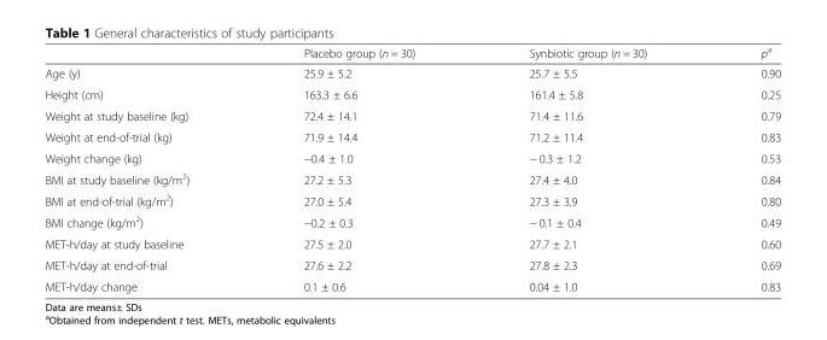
<table><thead><tr><td></td><td>Placebo group (n = 30)</td><td>Synbiotic group (n = 30)</td><td>p<sup>a</sup></td></tr></thead><tbody><tr><td>Age (y)</td><td>25.9 ± 5.2</td><td>25.7 ± 5.5</td><td>0.90</td></tr><tr><td>Height (cm)</td><td>163.3 ± 6.6</td><td>161.4 ± 5.8</td><td>0.25</td></tr><tr><td>Weight at study baseline (kg)</td><td>72.4 ± 14.1</td><td>71.4 ± 11.6</td><td>0.79</td></tr><tr><td>Weight at end-of-trial (kg)</td><td>71.9 ± 14.4</td><td>71.2 ± 11.4</td><td>0.83</td></tr><tr><td>Weight change (kg)</td><td>−0.4 ± 1.0</td><td>− 0.3 ± 1.2</td><td>0.53</td></tr><tr><td>BMI at study baseline (kg/m<sup>2</sup>)</td><td>27.2 ± 5.3</td><td>27.4 ± 4.0</td><td>0.84</td></tr><tr><td>BMI at end-of-trial (kg/m<sup>2</sup>)</td><td>27.0 ± 5.4</td><td>27.3 ± 3.9</td><td>0.80</td></tr><tr><td>BMI change (kg/m<sup>2</sup>)</td><td>−0.2 ± 0.3</td><td>− 0.1 ± 0.4</td><td>0.49</td></tr><tr><td>MET-h/day at study baseline</td><td>27.5 ± 2.0</td><td>27.7 ± 2.1</td><td>0.60</td></tr><tr><td>MET-h/day at end-of-trial</td><td>27.6 ± 2.2</td><td>27.8 ± 2.3</td><td>0.69</td></tr><tr><td>MET-h/day change</td><td>0.1 ± 0.6</td><td>0.04 ± 1.0</td><td>0.83</td></tr></tbody></table>